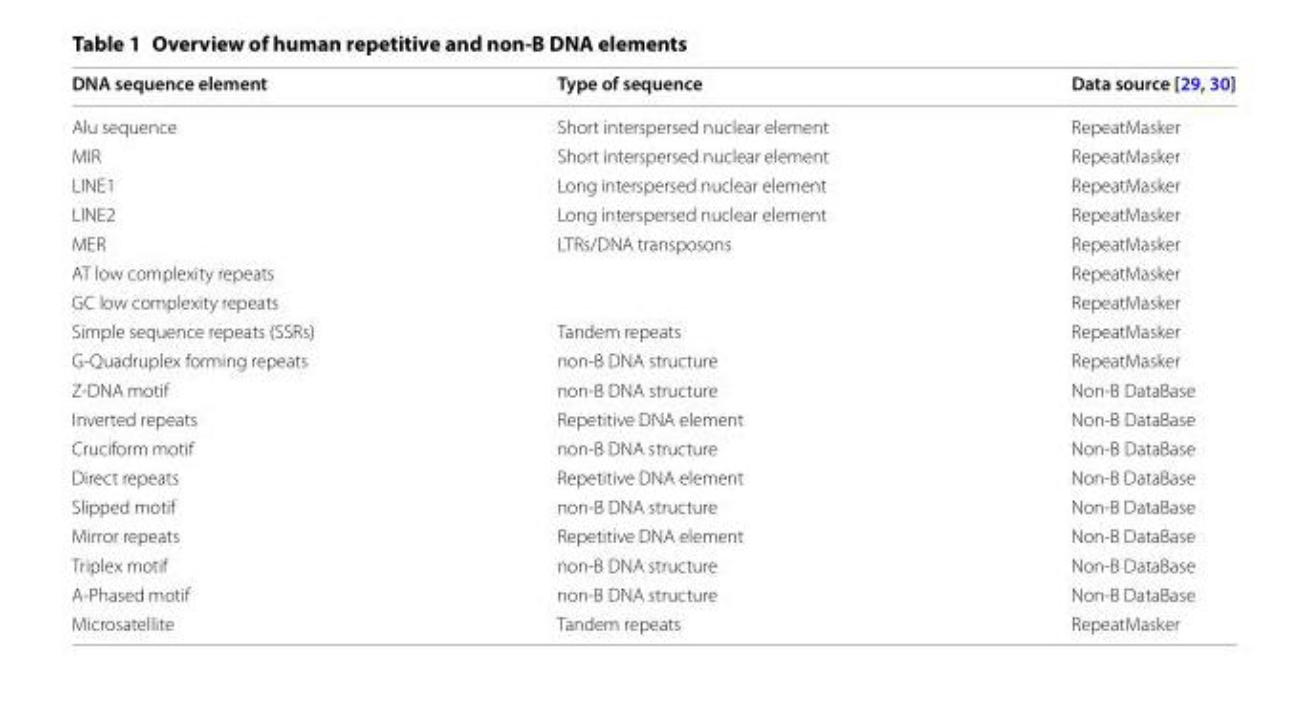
<table><thead><tr><td>DNA sequence element</td><td>Type of sequence</td><td>Data source [29, 30]</td></tr></thead><tbody><tr><td>Alu sequence</td><td>Short interspersed nuclear element</td><td>RepeatMasker</td></tr><tr><td>MIR</td><td>Short interspersed nuclear element</td><td>RepeatMasker</td></tr><tr><td>LINE1</td><td>Long interspersed nuclear element</td><td>RepeatMasker</td></tr><tr><td>LINE2</td><td>Long interspersed nuclear element</td><td>RepeatMasker</td></tr><tr><td>MER</td><td>LTRs/DNA transposons</td><td>RepeatMasker</td></tr><tr><td>AT low complexity repeats</td><td></td><td>RepeatMasker</td></tr><tr><td>GC low complexity repeats</td><td></td><td>RepeatMasker</td></tr><tr><td>Simple sequence repeats (SSRs)</td><td>Tandem repeats</td><td>RepeatMasker</td></tr><tr><td>G-Quadruplex forming repeats</td><td>non-B DNA structure</td><td>RepeatMasker</td></tr><tr><td>Z-DNA motif</td><td>non-B DNA structure</td><td>Non-B DataBase</td></tr><tr><td>Inverted repeats</td><td>Repetitive DNA element</td><td>Non-B DataBase</td></tr><tr><td>Cruciform motif</td><td>non-B DNA structure</td><td>Non-B DataBase</td></tr><tr><td>Direct repeats</td><td>Repetitive DNA element</td><td>Non-B DataBase</td></tr><tr><td>Slipped motif</td><td>non-B DNA structure</td><td>Non-B DataBase</td></tr><tr><td>Mirror repeats</td><td>Repetitive DNA element</td><td>Non-B DataBase</td></tr><tr><td>Triplex motif</td><td>non-B DNA structure</td><td>Non-B DataBase</td></tr><tr><td>A-Phased motif</td><td>non-B DNA structure</td><td>Non-B DataBase</td></tr><tr><td>Microsatellite</td><td>Tandem repeats</td><td>RepeatMasker</td></tr></tbody></table>